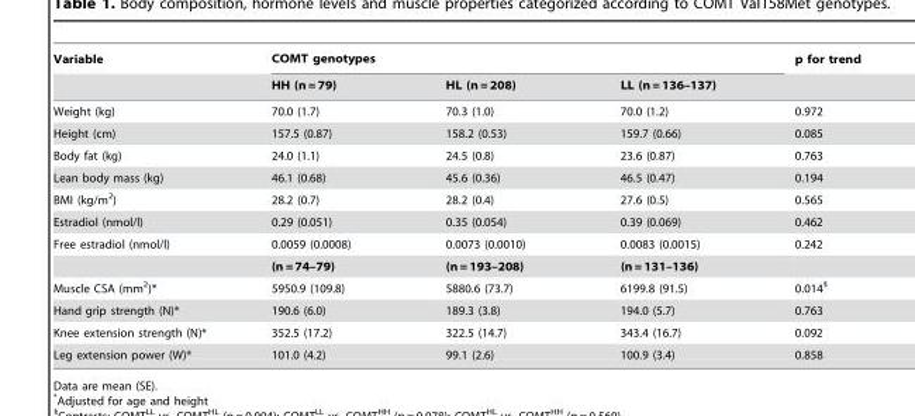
<table><thead><tr><td rowspan="2">Variable</td><td colspan="3">COMT genotypes</td><td rowspan="2">p for trend</td></tr><tr><td>HH (n = 79)</td><td>HL (n = 208)</td><td>LL (n = 136–137)</td></tr></thead><tbody><tr><td>Weight (kg)</td><td>70.0 (1.7)</td><td>70.3 (1.0)</td><td>70.0 (1.2)</td><td>0.972</td></tr><tr><td>Height (cm)</td><td>157.5 (0.87)</td><td>158.2 (0.53)</td><td>159.7 (0.66)</td><td>0.085</td></tr><tr><td>Body fat (kg)</td><td>24.0 (1.1)</td><td>24.5 (0.8)</td><td>23.6 (0.87)</td><td>0.763</td></tr><tr><td>Lean body mass (kg)</td><td>46.1 (0.68)</td><td>45.6 (0.36)</td><td>46.5 (0.47)</td><td>0.194</td></tr><tr><td>BMI (kg/m<sup>2</sup>)</td><td>28.2 (0.7)</td><td>28.2 (0.4)</td><td>27.6 (0.5)</td><td>0.565</td></tr><tr><td>Estradiol (nmol/l)</td><td>0.29 (0.051)</td><td>0.35 (0.054)</td><td>0.39 (0.069)</td><td>0.462</td></tr><tr><td rowspan="2">Free estradiol (nmol/l)</td><td>0.0059 (0.0008)</td><td>0.0073 (0.0010)</td><td>0.0083 (0.0015)</td><td>0.242</td></tr><tr><td>(n = 74–79)</td><td>(n = 193–208)</td><td>(n = 131–136)</td><td></td></tr><tr><td>Muscle CSA (mm<sup>2</sup>)*</td><td>5950.9 (109.8)</td><td>5880.6 (73.7)</td><td>6199.8 (91.5)</td><td>0.014§</td></tr><tr><td>Hand grip strength (N)*</td><td>190.6 (6.0)</td><td>189.3 (3.8)</td><td>194.0 (5.7)</td><td>0.763</td></tr><tr><td>Knee extension strength (N)*</td><td>352.5 (17.2)</td><td>322.5 (14.7)</td><td>343.4 (16.7)</td><td>0.092</td></tr><tr><td>Leg extension power (W)*</td><td>101.0 (4.2)</td><td>99.1 (2.6)</td><td>100.9 (3.4)</td><td>0.858</td></tr></tbody></table>